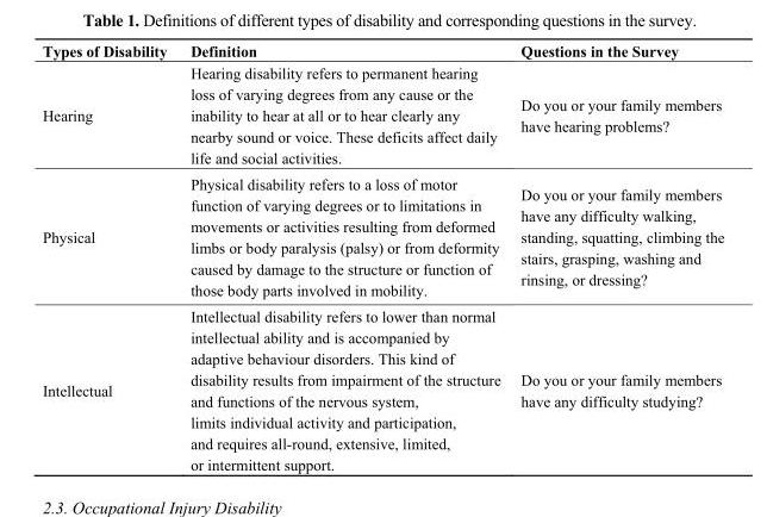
<table><thead><tr><td>Types of Disability</td><td>Definition</td><td>Questions in the Survey</td></tr></thead><tbody><tr><td>Hearing</td><td>Hearing disability refers to permanent hearing loss of varying degrees from any cause or the inability to hear at all or to hear clearly any nearby sound or voice. These deficits affect daily life and social activities.</td><td>Do you or your family members have hearing problems?</td></tr><tr><td>Physical</td><td>Physical disability refers to a loss of motor function of varying degrees or to limitations in movements or activities resulting from deformed limbs or body paralysis (palsy) or from deformity caused by damage to the structure or function of those body parts involved in mobility.</td><td>Do you or your family members have any difficulty walking, standing, squatting, climbing the stairs, grasping, washing and rinsing, or dressing?</td></tr><tr><td>Intellectual</td><td>Intellectual disability refers to lower than normal intellectual ability and is accompanied by adaptive behaviour disorders. This kind of disability results from impairment of the structure and functions of the nervous system, limits individual activity and participation, and requires all-round, extensive, limited, or intermittent support.</td><td>Do you or your family members have any difficulty studying?</td></tr></tbody></table>